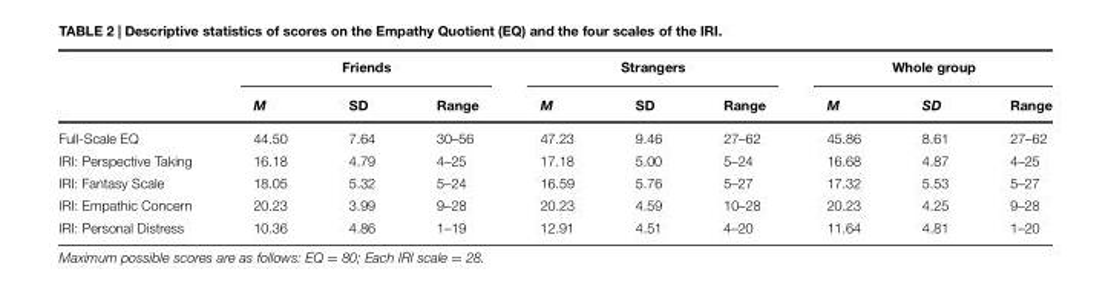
<table><thead><tr><td rowspan="2"></td><td colspan="3">Friends</td><td colspan="3">Strangers</td><td colspan="3">Whole group</td></tr><tr><td>M</td><td>SD</td><td>Range</td><td>M</td><td>SD</td><td>Range</td><td>M</td><td>SD</td><td>Range</td></tr></thead><tbody><tr><td>Full-Scale EQ</td><td>44.50</td><td>7.64</td><td>30–56</td><td>47.23</td><td>9.46</td><td>27–62</td><td>45.86</td><td>8.61</td><td>27–62</td></tr><tr><td>IRI: Perspective Taking</td><td>16.18</td><td>4.79</td><td>4–25</td><td>17.18</td><td>5.00</td><td>5–24</td><td>16.68</td><td>4.87</td><td>4–25</td></tr><tr><td>IRI: Fantasy Scale</td><td>18.05</td><td>5.32</td><td>5–24</td><td>16.59</td><td>5.76</td><td>5–27</td><td>17.32</td><td>5.53</td><td>5–27</td></tr><tr><td>IRI: Empathic Concern</td><td>20.23</td><td>3.99</td><td>9–28</td><td>20.23</td><td>4.59</td><td>10–28</td><td>20.23</td><td>4.25</td><td>9–28</td></tr><tr><td>IRI: Personal Distress</td><td>10.36</td><td>4.86</td><td>1–19</td><td>12.91</td><td>4.51</td><td>4–20</td><td>11.64</td><td>4.81</td><td>1–20</td></tr></tbody></table>